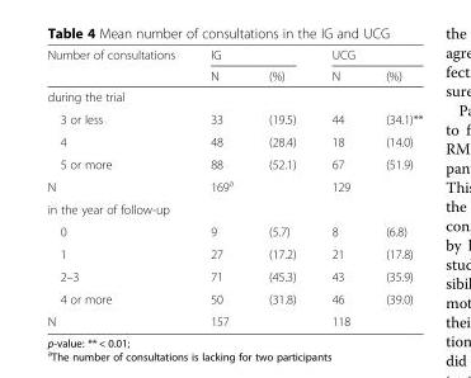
<table><thead><tr><td rowspan="2">Number of consultations</td><td colspan="2">IG</td><td colspan="2">UCG</td></tr><tr><td>N</td><td>(%)</td><td>N</td><td>(%)</td></tr></thead><tbody><tr><td colspan="5">during the trial</td></tr><tr><td>3 or less</td><td>33</td><td>(19.5)</td><td>44</td><td>(34.1)**</td></tr><tr><td>4</td><td>48</td><td>(28.4)</td><td>18</td><td>(14.0)</td></tr><tr><td>5 or more</td><td>88</td><td>(52.1)</td><td>67</td><td>(51.9)</td></tr><tr><td>N</td><td>169<sup>a</sup></td><td></td><td>129</td><td></td></tr><tr><td colspan="5">in the year of follow-up</td></tr><tr><td>0</td><td>9</td><td>(5.7)</td><td>8</td><td>(6.8)</td></tr><tr><td>1</td><td>27</td><td>(17.2)</td><td>21</td><td>(17.8)</td></tr><tr><td>2–3</td><td>71</td><td>(45.3)</td><td>43</td><td>(35.9)</td></tr><tr><td>4 or more</td><td>50</td><td>(31.8)</td><td>46</td><td>(39.0)</td></tr><tr><td>N</td><td>157</td><td></td><td>118</td><td></td></tr></tbody></table>